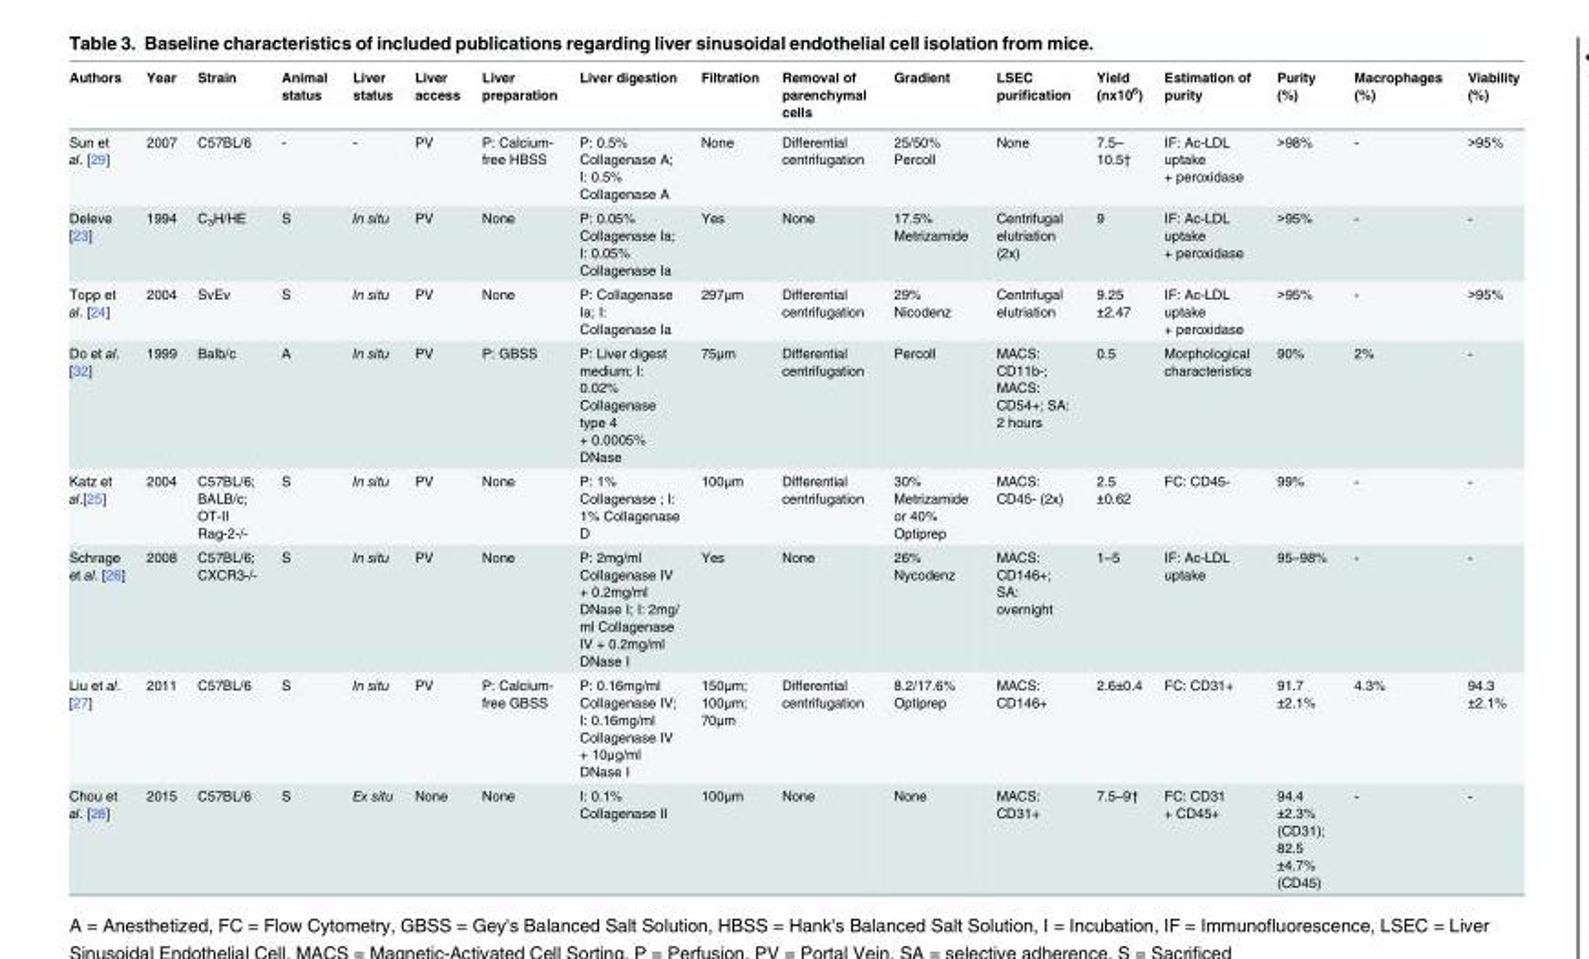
<table><thead><tr><td>Authors</td><td>Year</td><td>Strain</td><td>Animal status</td><td>Liver status</td><td>Liver access</td><td>Liver preparation</td><td>Liver digestion</td><td>Filtration</td><td>Removal of parenchymal cells</td><td>Gradient</td><td>LSEC purification</td><td>Yield (nx10<sup>6</sup>)</td><td>Estimation of purity</td><td>Purity (%)</td><td>Macrophages (%)</td><td>Viability (%)</td></tr></thead><tbody><tr><td>Sun et al. [29]</td><td>2007</td><td>C57BL/6</td><td>-</td><td>-</td><td>PV</td><td>P: Calcium- free HBSS</td><td>P: 0.5% Collagenase A; I: 0.5% Collagenase A</td><td>None</td><td>Differential centrifugation</td><td>25/50% Percoll</td><td>None</td><td>7.5– 10.5†</td><td>IF: Ac-LDL uptake + peroxidase</td><td>&gt;98%</td><td>-</td><td>&gt;95%</td></tr><tr><td>Deleve [23]</td><td>1994</td><td>C<sub>3</sub>H/HE</td><td>S</td><td>In situ</td><td>PV</td><td>None</td><td>P: 0.05% Collagenase Ia; I: 0.05% Collagenase Ia</td><td>Yes</td><td>None</td><td>17.5% Metrizamide</td><td>Centrifugal elutriation (2x)</td><td>9</td><td>IF: Ac-LDL uptake + peroxidase</td><td>&gt;95%</td><td>-</td><td>-</td></tr><tr><td>Topp et al. [24]</td><td>2004</td><td>SvEv</td><td>S</td><td>In situ</td><td>PV</td><td>None</td><td>P: Collagenase Ia; I: Collagenase Ia</td><td>297μm</td><td>Differential centrifugation</td><td>29% Nicodenz</td><td>Centrifugal elutriation</td><td>9.25 ±2.47</td><td>IF: Ac-LDL uptake + peroxidase</td><td>&gt;95%</td><td>-</td><td>&gt;95%</td></tr><tr><td>Do et al. [32]</td><td>1999</td><td>Balb/c</td><td>A</td><td>In situ</td><td>PV</td><td>P: GBSS</td><td>P: Liver digest medium; I: 0.02% Collagenase type 4 + 0.0005% DNase</td><td>75μm</td><td>Differential centrifugation</td><td>Percoll</td><td>MACS: CD11b-; MACS: CD54+; SA: 2 hours</td><td>0.5</td><td>Morphological characteristics</td><td>90%</td><td>2%</td><td>-</td></tr><tr><td>Katz et al.[25]</td><td>2004</td><td>C57BL/6; BALB/c; OT-II Rag-2-/-</td><td>S</td><td>In situ</td><td>PV</td><td>None</td><td>P: 1% Collagenase ; I: 1% Collagenase D</td><td>100μm</td><td>Differential centrifugation</td><td>30% Metrizamide or 40% Optiprep</td><td>MACS: CD45- (2x)</td><td>2.5 ±0.62</td><td>FC: CD45-</td><td>99%</td><td>-</td><td>-</td></tr><tr><td>Schrage et al. [26]</td><td>2008</td><td>C57BL/6; CXCR3-/-</td><td>S</td><td>In situ</td><td>PV</td><td>None</td><td>P: 2mg/ml Collagenase IV + 0.2mg/ml DNase I; I: 2mg/ ml Collagenase IV + 0.2mg/ml DNase I</td><td>Yes</td><td>None</td><td>26% Nycodenz</td><td>MACS: CD146+; SA: overnight</td><td>1–5</td><td>IF: Ac-LDL uptake</td><td>95–98%</td><td>-</td><td>-</td></tr><tr><td>Liu et al. [27]</td><td>2011</td><td>C57BL/6</td><td>S</td><td>In situ</td><td>PV</td><td>P: Calcium- free GBSS</td><td>P: 0.16mg/ml Collagenase IV; I: 0.16mg/ml Collagenase IV + 10μg/ml DNase I</td><td>150μm; 100μm; 70μm</td><td>Differential centrifugation</td><td>8.2/17.6% Optiprep</td><td>MACS: CD146+</td><td>2.6±0.4</td><td>FC: CD31+</td><td>91.7 ±2.1%</td><td>4.3%</td><td>94.3 ±2.1%</td></tr><tr><td>Chou et al. [28]</td><td>2015</td><td>C57BL/6</td><td>S</td><td>Ex situ</td><td>None</td><td>None</td><td>I: 0.1% Collagenase II</td><td>100μm</td><td>None</td><td>None</td><td>MACS: CD31+</td><td>7.5–9†</td><td>FC: CD31 + CD45+</td><td>94.4 ±2.3% (CD31); 82.5 ±4.7% (CD45)</td><td>-</td><td>-</td></tr></tbody></table>